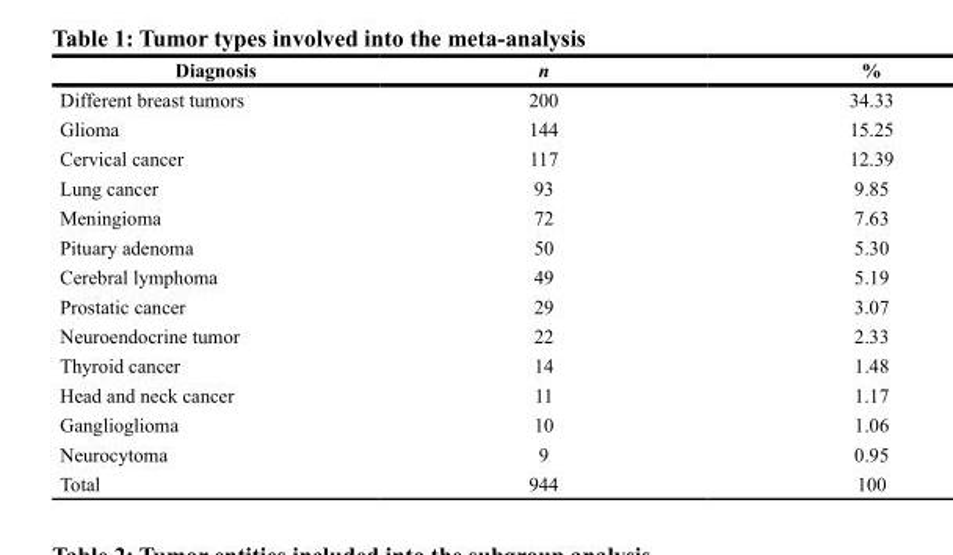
<table><thead><tr><td>Diagnosis</td><td>n</td><td>%</td></tr></thead><tbody><tr><td>Different breast tumors</td><td>200</td><td>34.33</td></tr><tr><td>Glioma</td><td>144</td><td>15.25</td></tr><tr><td>Cervical cancer</td><td>117</td><td>12.39</td></tr><tr><td>Lung cancer</td><td>93</td><td>9.85</td></tr><tr><td>Meningioma</td><td>72</td><td>7.63</td></tr><tr><td>Pituary adenoma</td><td>50</td><td>5.30</td></tr><tr><td>Cerebral lymphoma</td><td>49</td><td>5.19</td></tr><tr><td>Prostatic cancer</td><td>29</td><td>3.07</td></tr><tr><td>Neuroendocrine tumor</td><td>22</td><td>2.33</td></tr><tr><td>Thyroid cancer</td><td>14</td><td>1.48</td></tr><tr><td>Head and neck cancer</td><td>11</td><td>1.17</td></tr><tr><td>Ganglioglioma</td><td>10</td><td>1.06</td></tr><tr><td>Neurocytoma</td><td>9</td><td>0.95</td></tr><tr><td>Total</td><td>944</td><td>100</td></tr></tbody></table>